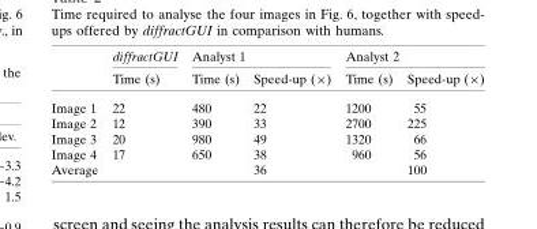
<table><thead><tr><td rowspan="2"></td><td rowspan="2">diffractGUI Time (s)</td><td colspan="2">Analyst 1</td><td colspan="2">Analyst 2</td></tr><tr><td>Time (s)</td><td>Speed-up (×)</td><td>Time (s)</td><td>Speed-up (×)</td></tr></thead><tbody><tr><td>Image 1</td><td>22</td><td>480</td><td>22</td><td>1200</td><td>55</td></tr><tr><td>Image 2</td><td>12</td><td>390</td><td>33</td><td>2700</td><td>225</td></tr><tr><td>Image 3</td><td>20</td><td>980</td><td>49</td><td>1320</td><td>66</td></tr><tr><td>Image 4</td><td>17</td><td>650</td><td>38</td><td>960</td><td>56</td></tr><tr><td>Average</td><td></td><td></td><td>36</td><td></td><td>100</td></tr></tbody></table>